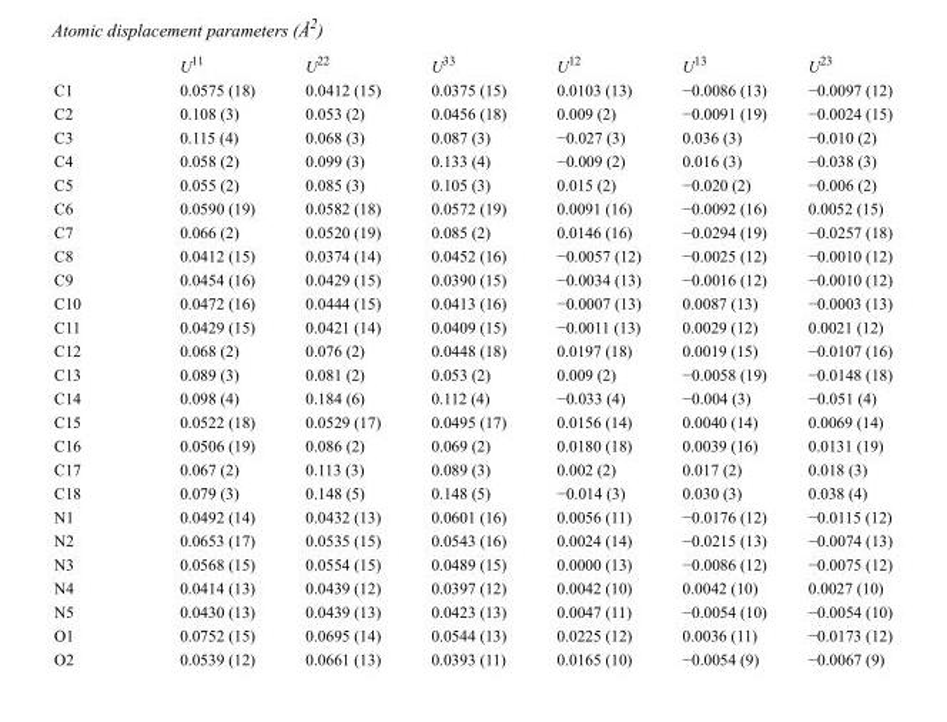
<table><thead><tr><td></td><td>U<sup>11</sup></td><td>U<sup>22</sup></td><td>U<sup>33</sup></td><td>U<sup>12</sup></td><td>U<sup>13</sup></td><td>U<sup>23</sup></td></tr></thead><tbody><tr><td>C1</td><td>0.0575 (18)</td><td>0.0412 (15)</td><td>0.0375 (15)</td><td>0.0103 (13)</td><td>−0.0086 (13)</td><td>−0.0097 (12)</td></tr><tr><td>C2</td><td>0.108 (3)</td><td>0.053 (2)</td><td>0.0456 (18)</td><td>0.009 (2)</td><td>−0.0091 (19)</td><td>−0.0024 (15)</td></tr><tr><td>C3</td><td>0.115 (4)</td><td>0.068 (3)</td><td>0.087 (3)</td><td>−0.027 (3)</td><td>0.036 (3)</td><td>−0.010 (2)</td></tr><tr><td>C4</td><td>0.058 (2)</td><td>0.099 (3)</td><td>0.133 (4)</td><td>−0.009 (2)</td><td>0.016 (3)</td><td>−0.038 (3)</td></tr><tr><td>C5</td><td>0.055 (2)</td><td>0.085 (3)</td><td>0.105 (3)</td><td>0.015 (2)</td><td>−0.020 (2)</td><td>−0.006 (2)</td></tr><tr><td>C6</td><td>0.0590 (19)</td><td>0.0582 (18)</td><td>0.0572 (19)</td><td>0.0091 (16)</td><td>−0.0092 (16)</td><td>0.0052 (15)</td></tr><tr><td>C7</td><td>0.066 (2)</td><td>0.0520 (19)</td><td>0.085 (2)</td><td>0.0146 (16)</td><td>−0.0294 (19)</td><td>−0.0257 (18)</td></tr><tr><td>C8</td><td>0.0412 (15)</td><td>0.0374 (14)</td><td>0.0452 (16)</td><td>−0.0057 (12)</td><td>−0.0025 (12)</td><td>−0.0010 (12)</td></tr><tr><td>C9</td><td>0.0454 (16)</td><td>0.0429 (15)</td><td>0.0390 (15)</td><td>−0.0034 (13)</td><td>−0.0016 (12)</td><td>−0.0010 (12)</td></tr><tr><td>C10</td><td>0.0472 (16)</td><td>0.0444 (15)</td><td>0.0413 (16)</td><td>−0.0007 (13)</td><td>0.0087 (13)</td><td>−0.0003 (13)</td></tr><tr><td>C11</td><td>0.0429 (15)</td><td>0.0421 (14)</td><td>0.0409 (15)</td><td>−0.0011 (13)</td><td>0.0029 (12)</td><td>0.0021 (12)</td></tr><tr><td>C12</td><td>0.068 (2)</td><td>0.076 (2)</td><td>0.0448 (18)</td><td>0.0197 (18)</td><td>0.0019 (15)</td><td>−0.0107 (16)</td></tr><tr><td>C13</td><td>0.089 (3)</td><td>0.081 (2)</td><td>0.053 (2)</td><td>0.009 (2)</td><td>−0.0058 (19)</td><td>−0.0148 (18)</td></tr><tr><td>C14</td><td>0.098 (4)</td><td>0.184 (6)</td><td>0.112 (4)</td><td>−0.033 (4)</td><td>−0.004 (3)</td><td>−0.051 (4)</td></tr><tr><td>C15</td><td>0.0522 (18)</td><td>0.0529 (17)</td><td>0.0495 (17)</td><td>0.0156 (14)</td><td>0.0040 (14)</td><td>0.0069 (14)</td></tr><tr><td>C16</td><td>0.0506 (19)</td><td>0.086 (2)</td><td>0.069 (2)</td><td>0.0180 (18)</td><td>0.0039 (16)</td><td>0.0131 (19)</td></tr><tr><td>C17</td><td>0.067 (2)</td><td>0.113 (3)</td><td>0.089 (3)</td><td>0.002 (2)</td><td>0.017 (2)</td><td>0.018 (3)</td></tr><tr><td>C18</td><td>0.079 (3)</td><td>0.148 (5)</td><td>0.148 (5)</td><td>−0.014 (3)</td><td>0.030 (3)</td><td>0.038 (4)</td></tr><tr><td>N1</td><td>0.0492 (14)</td><td>0.0432 (13)</td><td>0.0601 (16)</td><td>0.0056 (11)</td><td>−0.0176 (12)</td><td>−0.0115 (12)</td></tr><tr><td>N2</td><td>0.0653 (17)</td><td>0.0535 (15)</td><td>0.0543 (16)</td><td>0.0024 (14)</td><td>−0.0215 (13)</td><td>−0.0074 (13)</td></tr><tr><td>N3</td><td>0.0568 (15)</td><td>0.0554 (15)</td><td>0.0489 (15)</td><td>0.0000 (13)</td><td>−0.0086 (12)</td><td>−0.0075 (12)</td></tr><tr><td>N4</td><td>0.0414 (13)</td><td>0.0439 (12)</td><td>0.0397 (12)</td><td>0.0042 (10)</td><td>0.0042 (10)</td><td>0.0027 (10)</td></tr><tr><td>N5</td><td>0.0430 (13)</td><td>0.0439 (13)</td><td>0.0423 (13)</td><td>0.0047 (11)</td><td>−0.0054 (10)</td><td>−0.0054 (10)</td></tr><tr><td>O1</td><td>0.0752 (15)</td><td>0.0695 (14)</td><td>0.0544 (13)</td><td>0.0225 (12)</td><td>0.0036 (11)</td><td>−0.0173 (12)</td></tr><tr><td>O2</td><td>0.0539 (12)</td><td>0.0661 (13)</td><td>0.0393 (11)</td><td>0.0165 (10)</td><td>−0.0054 (9)</td><td>−0.0067 (9)</td></tr></tbody></table>